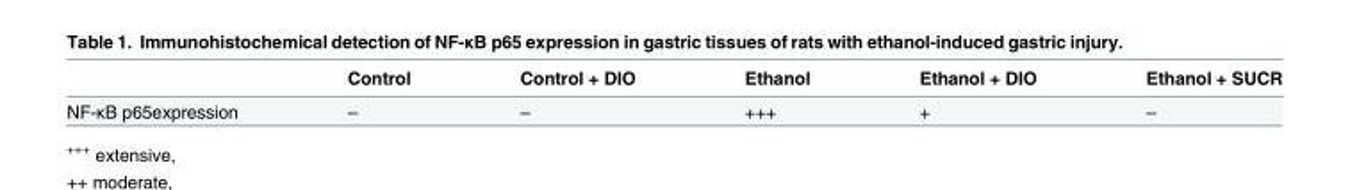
<table><thead><tr><td></td><td>Control</td><td>Control + DIO</td><td>Ethanol</td><td>Ethanol + DIO</td><td>Ethanol + SUCR</td></tr></thead><tbody><tr><td>NF-κB p65expression</td><td>–</td><td>–</td><td>+++</td><td>+</td><td>–</td></tr></tbody></table>